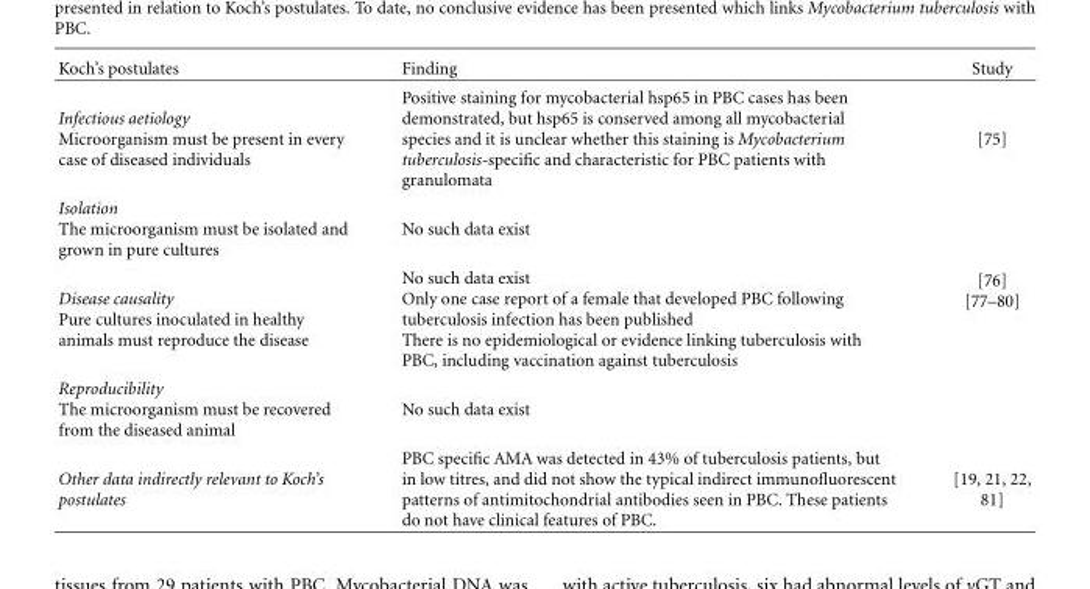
<table><thead><tr><td>Koch’s postulates</td><td>Finding</td><td>Study</td></tr></thead><tbody><tr><td>Infectious aetiology Microorganism must be present in every case of diseased individuals</td><td>Positive staining for mycobacterial hsp65 in PBC cases has been demonstrated, but hsp65 is conserved among all mycobacterial species and it is unclear whether this staining is Mycobacterium tuberculosis-specific and characteristic for PBC patients with granulomata</td><td>[75]</td></tr><tr><td>Isolation The microorganism must be isolated and grown in pure cultures</td><td>No such data exist</td><td></td></tr><tr><td>Disease causality Pure cultures inoculated in healthy animals must reproduce the disease</td><td>No such data exist Only one case report of a female that developed PBC following tuberculosis infection has been published There is no epidemiological or evidence linking tuberculosis with PBC, including vaccination against tuberculosis</td><td>[76] [77–80]</td></tr><tr><td>Reproducibility The microorganism must be recovered from the diseased animal</td><td>No such data exist</td><td></td></tr><tr><td>Other data indirectly relevant to Koch’s postulates</td><td>PBC specific AMA was detected in 43% of tuberculosis patients, but in low titres, and did not show the typical indirect immunofluorescent patterns of antimitochondrial antibodies seen in PBC. These patients do not have clinical features of PBC.</td><td>[19, 21, 22, 81]</td></tr></tbody></table>